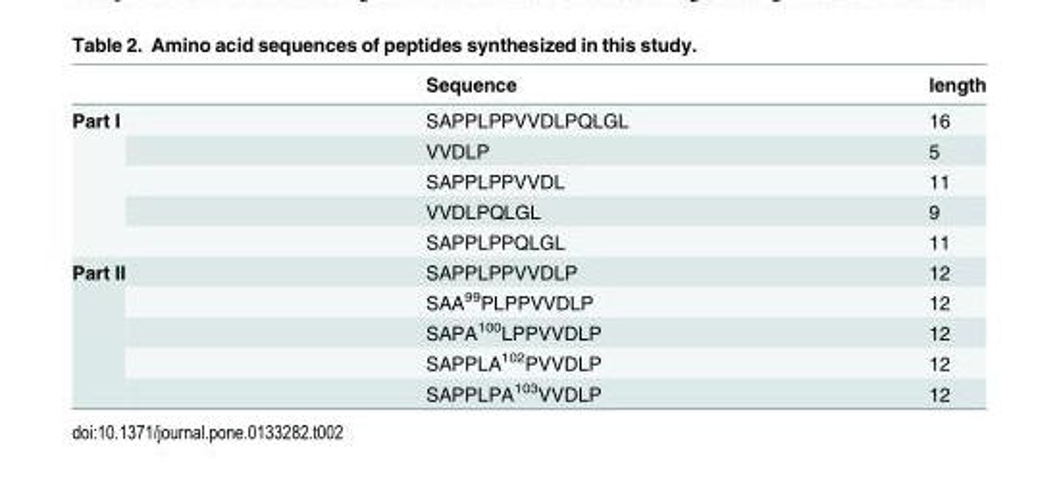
<table><thead><tr><td></td><td>Sequence</td><td>length</td></tr></thead><tbody><tr><td rowspan="5">Part I</td><td>SAPPLPPVVDLPQLGL</td><td>16</td></tr><tr><td>VVDLP</td><td>5</td></tr><tr><td>SAPPLPPVVDL</td><td>11</td></tr><tr><td>VVDLPQLGL</td><td>9</td></tr><tr><td>SAPPLPPQLGL</td><td>11</td></tr><tr><td rowspan="5">Part II</td><td>SAPPLPPVVDLP</td><td>12</td></tr><tr><td>SAA<sup>99</sup>PLPPVVDLP</td><td>12</td></tr><tr><td>SAPA<sup>100</sup>LPPVVDLP</td><td>12</td></tr><tr><td>SAPPLA<sup>102</sup>PVVDLP</td><td>12</td></tr><tr><td>SAPPLPA<sup>103</sup>VVDLP</td><td>12</td></tr></tbody></table>